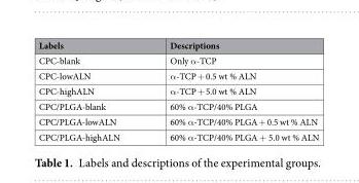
<table><thead><tr><td>Labels</td><td>Descriptions</td></tr></thead><tbody><tr><td>CPC-blank</td><td>Only α-TCP</td></tr><tr><td>CPC-lowALN</td><td>α-TCP + 0.5 wt % ALN</td></tr><tr><td>CPC-highALN</td><td>α-TCP + 5.0 wt % ALN</td></tr><tr><td>CPC/PLGA-blank</td><td>60% α-TCP/40% PLGA</td></tr><tr><td>CPC/PLGA-lowALN</td><td>60% α-TCP/40% PLGA + 0.5 wt % ALN</td></tr><tr><td>CPC/PLGA-highALN</td><td>60% α-TCP/40% PLGA + 5.0 wt % ALN</td></tr></tbody></table>